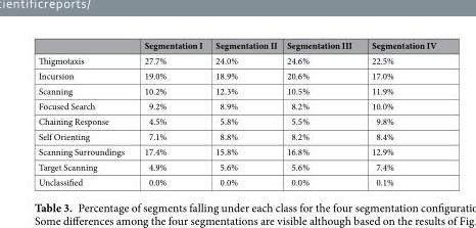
<table><thead><tr><td></td><td>Segmentation I</td><td>Segmentation II</td><td>Segmentation III</td><td>Segmentation IV</td></tr></thead><tbody><tr><td>Thigmotaxis</td><td>27.7%</td><td>24.0%</td><td>24.6%</td><td>22.5%</td></tr><tr><td>Incursion</td><td>19.0%</td><td>18.9%</td><td>20.6%</td><td>17.0%</td></tr><tr><td>Scanning</td><td>10.2%</td><td>12.3%</td><td>10.5%</td><td>11.9%</td></tr><tr><td>Focused Search</td><td>9.2%</td><td>8.9%</td><td>8.2%</td><td>10.0%</td></tr><tr><td>Chaining Response</td><td>4.5%</td><td>5.8%</td><td>5.5%</td><td>9.8%</td></tr><tr><td>Self Orienting</td><td>7.1%</td><td>8.8%</td><td>8.2%</td><td>8.4%</td></tr><tr><td>Scanning Surroundings</td><td>17.4%</td><td>15.8%</td><td>16.8%</td><td>12.9%</td></tr><tr><td>Target Scanning</td><td>4.9%</td><td>5.6%</td><td>5.6%</td><td>7.4%</td></tr><tr><td>Unclassified</td><td>0.0%</td><td>0.0%</td><td>0.0%</td><td>0.1%</td></tr></tbody></table>